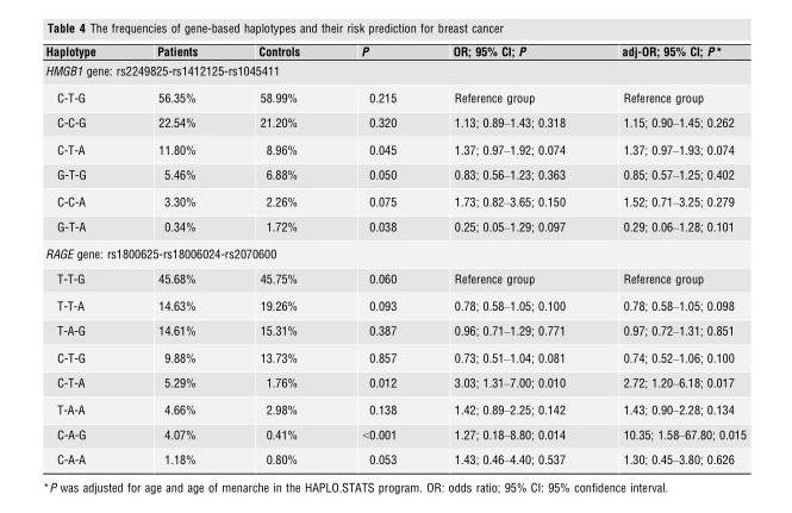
<table><thead><tr><td>Haplotype</td><td>Patients</td><td>Controls</td><td>P</td><td>OR; 95% CI; P</td><td>adj-OR; 95% CI; P *</td></tr></thead><tbody><tr><td colspan="6">HMGB1 gene: rs2249825-rs1412125-rs1045411</td></tr><tr><td>C-T-G</td><td>56.35%</td><td>58.99%</td><td>0.215</td><td>Reference group</td><td>Reference group</td></tr><tr><td>C-C-G</td><td>22.54%</td><td>21.20%</td><td>0.320</td><td>1.13; 0.89–1.43; 0.318</td><td>1.15; 0.90–1.45; 0.262</td></tr><tr><td>C-T-A</td><td>11.80%</td><td>8.96%</td><td>0.045</td><td>1.37; 0.97–1.92; 0.074</td><td>1.37; 0.97–1.93; 0.074</td></tr><tr><td>G-T-G</td><td>5.46%</td><td>6.88%</td><td>0.050</td><td>0.83; 0.56–1.23; 0.363</td><td>0.85; 0.57–1.25; 0.402</td></tr><tr><td>C-C-A</td><td>3.30%</td><td>2.26%</td><td>0.075</td><td>1.73; 0.82–3.65; 0.150</td><td>1.52; 0.71–3.25; 0.279</td></tr><tr><td>G-T-A</td><td>0.34%</td><td>1.72%</td><td>0.038</td><td>0.25; 0.05–1.29; 0.097</td><td>0.29; 0.06–1.28; 0.101</td></tr><tr><td colspan="6">RAGE gene: rs1800625-rs18006024-rs2070600</td></tr><tr><td>T-T-G</td><td>45.68%</td><td>45.75%</td><td>0.060</td><td>Reference group</td><td>Reference group</td></tr><tr><td>T-T-A</td><td>14.63%</td><td>19.26%</td><td>0.093</td><td>0.78; 0.58–1.05; 0.100</td><td>0.78; 0.58–1.05; 0.098</td></tr><tr><td>T-A-G</td><td>14.61%</td><td>15.31%</td><td>0.387</td><td>0.96; 0.71–1.29; 0.771</td><td>0.97; 0.72–1.31; 0.851</td></tr><tr><td>C-T-G</td><td>9.88%</td><td>13.73%</td><td>0.857</td><td>0.73; 0.51–1.04; 0.081</td><td>0.74; 0.52–1.06; 0.100</td></tr><tr><td>C-T-A</td><td>5.29%</td><td>1.76%</td><td>0.012</td><td>3.03; 1.31–7.00; 0.010</td><td>2.72; 1.20–6.18; 0.017</td></tr><tr><td>T-A-A</td><td>4.66%</td><td>2.98%</td><td>0.138</td><td>1.42; 0.89–2.25; 0.142</td><td>1.43; 0.90–2.28; 0.134</td></tr><tr><td>C-A-G</td><td>4.07%</td><td>0.41%</td><td>&lt;0.001</td><td>1.27; 0.18–8.80; 0.014</td><td>10.35; 1.58–67.80; 0.015</td></tr><tr><td>C-A-A</td><td>1.18%</td><td>0.80%</td><td>0.053</td><td>1.43; 0.46–4.40; 0.537</td><td>1.30; 0.45–3.80; 0.626</td></tr></tbody></table>